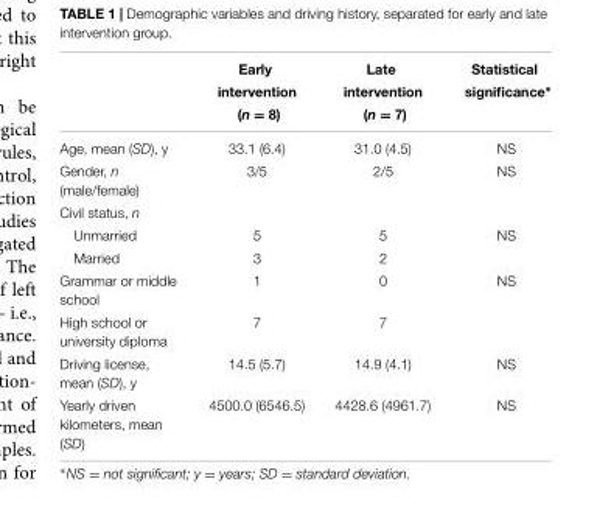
<table><thead><tr><td rowspan="3"></td><td rowspan="3">Early intervention (n = 8)</td><td rowspan="3">Late intervention (n = 7)</td><td rowspan="3">Statistical significance∗</td></tr><tr></tr><tr></tr></thead><tbody><tr><td>Age, mean (SD), y</td><td>33.1 (6.4)</td><td>31.0 (4.5)</td><td>NS</td></tr><tr><td>Gender, n (male/female)</td><td>3/5</td><td>2/5</td><td>NS</td></tr><tr><td colspan="4">Civil status, n</td></tr><tr><td>Unmarried</td><td>5</td><td>5</td><td>NS</td></tr><tr><td>Married</td><td>3</td><td>2</td><td></td></tr><tr><td>Grammar or middle school</td><td>1</td><td>0</td><td>NS</td></tr><tr><td>High school or university diploma</td><td>7</td><td>7</td><td></td></tr><tr><td>Driving license, mean (SD), y</td><td>14.5 (5.7)</td><td>14.9 (4.1)</td><td>NS</td></tr><tr><td>Yearly driven kilometers, mean (SD)</td><td>4500.0 (6546.5)</td><td>4428.6 (4961.7)</td><td>NS</td></tr></tbody></table>